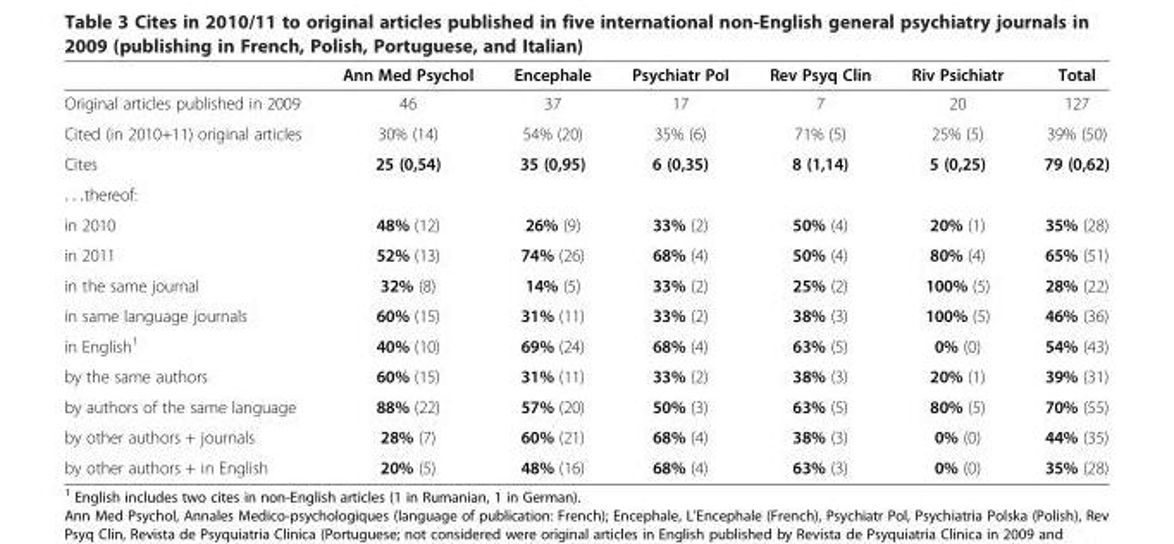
<table><thead><tr><td></td><td>Ann Med Psychol</td><td>Encephale</td><td>Psychiatr Pol</td><td>Rev Psyq Clin</td><td>Riv Psichiatr</td><td>Total</td></tr></thead><tbody><tr><td>Original articles published in 2009</td><td>46</td><td>37</td><td>17</td><td>7</td><td>20</td><td>127</td></tr><tr><td>Cited (in 2010+11) original articles</td><td>30% (14)</td><td>54% (20)</td><td>35% (6)</td><td>71% (5)</td><td>25% (5)</td><td>39% (50)</td></tr><tr><td>Cites</td><td>25 (0,54)</td><td>35 (0,95)</td><td>6 (0,35)</td><td>8 (1,14)</td><td>5 (0,25)</td><td>79 (0,62)</td></tr><tr><td colspan="7">. . .thereof:</td></tr><tr><td>in 2010</td><td>48% (12)</td><td>26% (9)</td><td>33% (2)</td><td>50% (4)</td><td>20% (1)</td><td>35% (28)</td></tr><tr><td>in 2011</td><td>52% (13)</td><td>74% (26)</td><td>68% (4)</td><td>50% (4)</td><td>80% (4)</td><td>65% (51)</td></tr><tr><td>in the same journal</td><td>32% (8)</td><td>14% (5)</td><td>33% (2)</td><td>25% (2)</td><td>100% (5)</td><td>28% (22)</td></tr><tr><td>in same language journals</td><td>60% (15)</td><td>31% (11)</td><td>33% (2)</td><td>38% (3)</td><td>100% (5)</td><td>46% (36)</td></tr><tr><td>in English<sup>1</sup></td><td>40% (10)</td><td>69% (24)</td><td>68% (4)</td><td>63% (5)</td><td>0% (0)</td><td>54% (43)</td></tr><tr><td>by the same authors</td><td>60% (15)</td><td>31% (11)</td><td>33% (2)</td><td>38% (3)</td><td>20% (1)</td><td>39% (31)</td></tr><tr><td>by authors of the same language</td><td>88% (22)</td><td>57% (20)</td><td>50% (3)</td><td>63% (5)</td><td>80% (5)</td><td>70% (55)</td></tr><tr><td>by other authors + journals</td><td>28% (7)</td><td>60% (21)</td><td>68% (4)</td><td>38% (3)</td><td>0% (0)</td><td>44% (35)</td></tr><tr><td>by other authors + in English</td><td>20% (5)</td><td>48% (16)</td><td>68% (4)</td><td>63% (3)</td><td>0% (0)</td><td>35% (28)</td></tr></tbody></table>